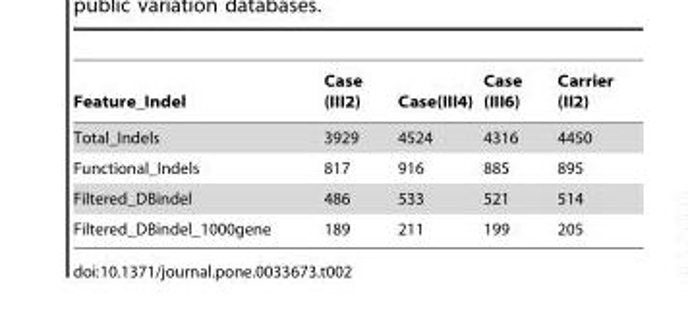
<table><thead><tr><td>Feature_Indel</td><td>Case (III2)</td><td>Case(III4)</td><td>Case (III6)</td><td>Carrier (II2)</td></tr></thead><tbody><tr><td>Total_Indels</td><td>3929</td><td>4524</td><td>4316</td><td>4450</td></tr><tr><td>Functional_Indels</td><td>817</td><td>916</td><td>885</td><td>895</td></tr><tr><td>Filtered_DBindel</td><td>486</td><td>533</td><td>521</td><td>514</td></tr><tr><td>Filtered_DBindel_1000gene</td><td>189</td><td>211</td><td>199</td><td>205</td></tr></tbody></table>